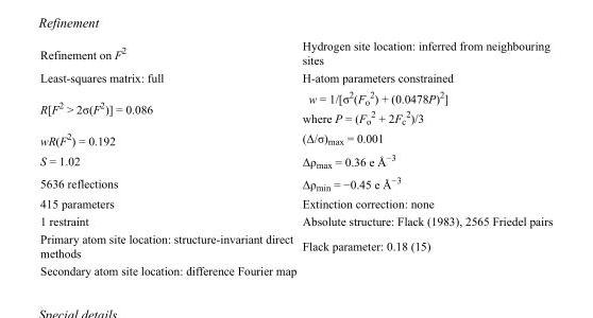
<table><tbody><tr><td>Refinement on F<sup>2</sup></td><td>Hydrogen site location: inferred from neighbouring sites</td></tr><tr><td>Least-squares matrix: full</td><td>H-atom parameters constrained</td></tr><tr><td>R[F<sup>2</sup> &gt; 2σ(F<sup>2</sup>)] = 0.086</td><td>w = 1/[σ<sup>2</sup>(F<sub>o</sub> <sup>2</sup>) + (0.0478P)<sup>2</sup>] where P = (F<sub>o</sub> <sup>2</sup> + 2F<sub>c</sub> <sup>2</sup>)/3</td></tr><tr><td>wR(F<sup>2</sup>) = 0.192</td><td>(Δ/σ)<sub>max</sub> = 0.001</td></tr><tr><td>S = 1.02</td><td>Δρ<sub>max</sub> = 0.36 e Å<sup>−3</sup></td></tr><tr><td>5636 reflections</td><td>Δρ<sub>min</sub> = −0.45 e Å<sup>−3</sup></td></tr><tr><td>415 parameters</td><td>Extinction correction: none</td></tr><tr><td>1 restraint</td><td>Absolute structure: Flack (1983), 2565 Friedel pairs</td></tr><tr><td>Primary atom site location: structure-invariant direct methods</td><td>Flack parameter: 0.18 (15)</td></tr><tr><td>Secondary atom site location: difference Fourier map</td><td></td></tr></tbody></table>